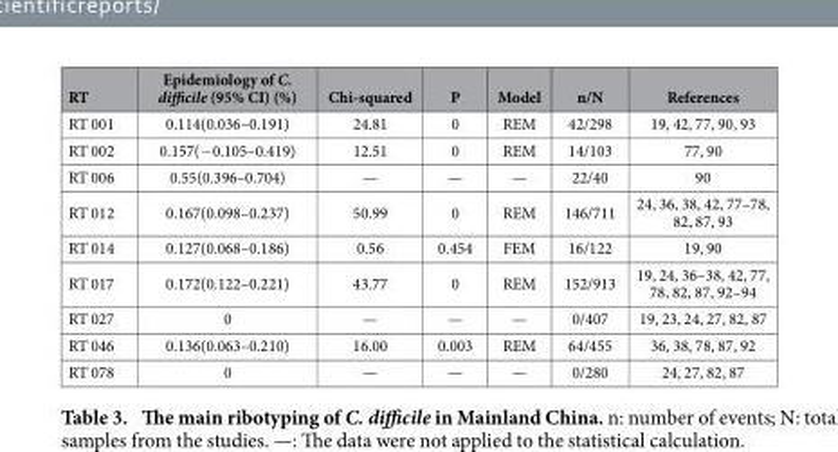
<table><thead><tr><td>RT</td><td>Epidemiology of C. difficile (95% CI) (%)</td><td>Chi-squared</td><td>P</td><td>Model</td><td>n/N</td><td>References</td></tr></thead><tbody><tr><td>RT 001</td><td>0.114(0.036–0.191)</td><td>24.81</td><td>0</td><td>REM</td><td>42/298</td><td>19, 42, 77, 90, 93</td></tr><tr><td>RT 002</td><td>0.157(− 0.105–0.419)</td><td>12.51</td><td>0</td><td>REM</td><td>14/103</td><td>77, 90</td></tr><tr><td>RT 006</td><td>0.55(0.396–0.704)</td><td>—</td><td>—</td><td>—</td><td>22/40</td><td>90</td></tr><tr><td>RT 012</td><td>0.167(0.098–0.237)</td><td>50.99</td><td>0</td><td>REM</td><td>146/711</td><td>24, 36, 38, 42, 77–78, 82, 87, 93</td></tr><tr><td>RT 014</td><td>0.127(0.068–0.186)</td><td>0.56</td><td>0.454</td><td>FEM</td><td>16/122</td><td>19, 90</td></tr><tr><td>RT 017</td><td>0.172(0.122–0.221)</td><td>43.77</td><td>0</td><td>REM</td><td>152/913</td><td>19, 24, 36–38, 42, 77, 78, 82, 87, 92–94</td></tr><tr><td>RT 027</td><td>0</td><td>—</td><td>—</td><td>—</td><td>0/407</td><td>19, 23, 24, 27, 82, 87</td></tr><tr><td>RT 046</td><td>0.136(0.063–0.210)</td><td>16.00</td><td>0.003</td><td>REM</td><td>64/455</td><td>36, 38, 78, 87, 92</td></tr><tr><td>RT 078</td><td>0</td><td>—</td><td>—</td><td>—</td><td>0/280</td><td>24, 27, 82, 87</td></tr></tbody></table>